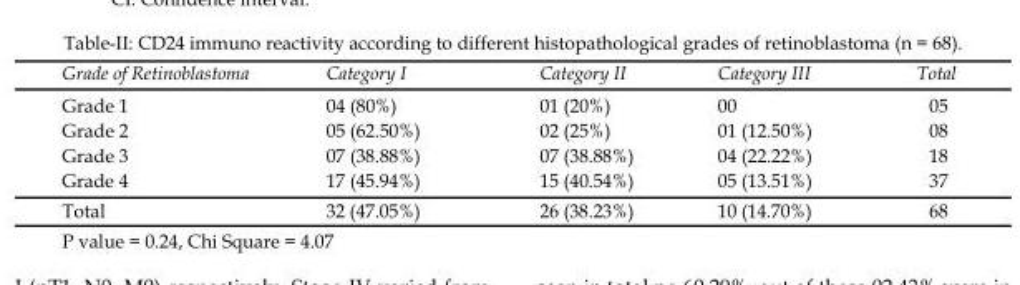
<table><thead><tr><td>Grade of Retinoblastoma</td><td>Category I</td><td>Category II</td><td>Category III</td><td>Total</td></tr></thead><tbody><tr><td>Grade 1</td><td>04 (80%)</td><td>01 (20%)</td><td>00</td><td>05</td></tr><tr><td>Grade 2</td><td>05 (62.50%)</td><td>02 (25%)</td><td>01 (12.50%)</td><td>08</td></tr><tr><td>Grade 3</td><td>07 (38.88%)</td><td>07 (38.88%)</td><td>04 (22.22%)</td><td>18</td></tr><tr><td>Grade 4</td><td>17 (45.94%)</td><td>15 (40.54%)</td><td>05 (13.51%)</td><td>37</td></tr><tr><td>Total</td><td>32 (47.05%)</td><td>26 (38.23%)</td><td>10 (14.70%)</td><td>68</td></tr></tbody></table>